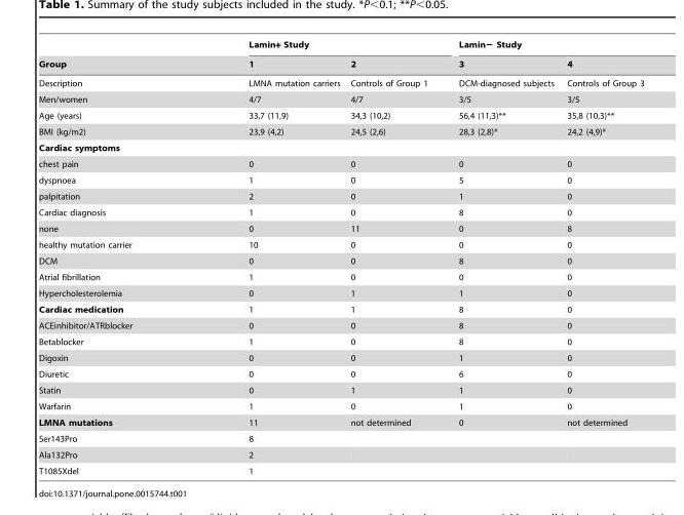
<table><thead><tr><td rowspan="2">Group</td><td colspan="2">Lamin+ Study</td><td colspan="2">Lamin− Study</td></tr><tr><td>1</td><td>2</td><td>3</td><td>4</td></tr></thead><tbody><tr><td>Description</td><td>LMNA mutation carriers</td><td>Controls of Group 1</td><td>DCM-diagnosed subjects</td><td>Controls of Group 3</td></tr><tr><td>Men/women</td><td>4/7</td><td>4/7</td><td>3/5</td><td>3/5</td></tr><tr><td>Age (years)</td><td>33,7 (11,9)</td><td>34,3 (10,2)</td><td>56,4 (11,3)**</td><td>35,8 (10,3)**</td></tr><tr><td>BMI (kg/m2)</td><td>23,9 (4,2)</td><td>24,5 (2,6)</td><td>28,3 (2,8)*</td><td>24,2 (4,9)*</td></tr><tr><td colspan="5">Cardiac symptoms</td></tr><tr><td>chest pain</td><td>0</td><td>0</td><td>0</td><td>0</td></tr><tr><td>dyspnoea</td><td>1</td><td>0</td><td>5</td><td>0</td></tr><tr><td>palpitation</td><td>2</td><td>0</td><td>1</td><td>0</td></tr><tr><td>Cardiac diagnosis</td><td>1</td><td>0</td><td>8</td><td>0</td></tr><tr><td>none</td><td>0</td><td>11</td><td>0</td><td>8</td></tr><tr><td>healthy mutation carrier</td><td>10</td><td>0</td><td>0</td><td>0</td></tr><tr><td>DCM</td><td>0</td><td>0</td><td>8</td><td>0</td></tr><tr><td>Atrial fibrillation</td><td>1</td><td>0</td><td>0</td><td>0</td></tr><tr><td>Hypercholesterolemia</td><td>0</td><td>1</td><td>1</td><td>0</td></tr><tr><td>Cardiac medication</td><td>1</td><td>1</td><td>8</td><td>0</td></tr><tr><td>ACEinhibitor/ATRblocker</td><td>0</td><td>0</td><td>8</td><td>0</td></tr><tr><td>Betablocker</td><td>1</td><td>0</td><td>8</td><td>0</td></tr><tr><td>Digoxin</td><td>0</td><td>0</td><td>1</td><td>0</td></tr><tr><td>Diuretic</td><td>0</td><td>0</td><td>6</td><td>0</td></tr><tr><td>Statin</td><td>0</td><td>1</td><td>1</td><td>0</td></tr><tr><td>Warfarin</td><td>1</td><td>0</td><td>1</td><td>0</td></tr><tr><td>LMNA mutations</td><td>11</td><td>not determined</td><td>0</td><td>not determined</td></tr><tr><td>Ser143Pro</td><td>8</td><td></td><td></td><td></td></tr><tr><td>Ala132Pro</td><td>2</td><td></td><td></td><td></td></tr><tr><td>T1085Xdel</td><td>1</td><td></td><td></td><td></td></tr></tbody></table>